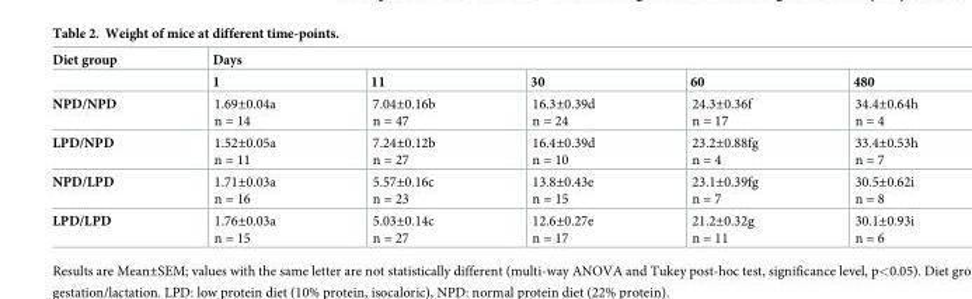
<table><thead><tr><td rowspan="2">Diet group</td><td colspan="5">Days</td></tr><tr><td>1</td><td>11</td><td>30</td><td>60</td><td>480</td></tr></thead><tbody><tr><td>NPD/NPD</td><td>1.69±0.04a n = 14</td><td>7.04±0.16b n = 47</td><td>16.3±0.39d n = 24</td><td>24.3±0.36f n = 17</td><td>34.4±0.64h n = 4</td></tr><tr><td>LPD/NPD</td><td>1.52±0.05a n = 11</td><td>7.24±0.12b n = 27</td><td>16.4±0.39d n = 10</td><td>23.2±0.88fg n = 4</td><td>33.4±0.53h n = 7</td></tr><tr><td>NPD/LPD</td><td>1.71±0.03a n = 16</td><td>5.57±0.16c n = 23</td><td>13.8±0.43e n = 15</td><td>23.1±0.39fg n = 7</td><td>30.5±0.62i n = 8</td></tr><tr><td>LPD/LPD</td><td>1.76±0.03a n = 15</td><td>5.03±0.14c n = 27</td><td>12.6±0.27e n = 17</td><td>21.2±0.32g n = 11</td><td>30.1±0.93i n = 6</td></tr></tbody></table>